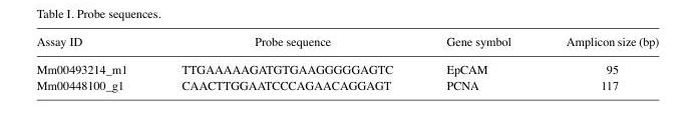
<table><thead><tr><td>Assay ID</td><td>Probe sequence</td><td>Gene symbol</td><td>Amplicon size (bp)</td></tr></thead><tbody><tr><td>Mm00493214_m1</td><td>TTGAAAAAGATGTGAAGGGGGAGTC</td><td>EpCAM</td><td>95</td></tr><tr><td>Mm00448100_g1</td><td>CAACTTGGAATCCCAGAACAGGAGT</td><td>PCNA</td><td>117</td></tr></tbody></table>